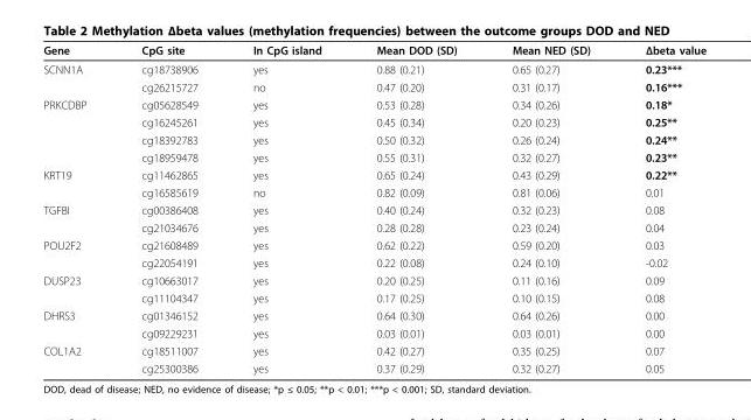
<table><thead><tr><td>Gene</td><td>CpG site</td><td>In CpG island</td><td>Mean DOD (SD)</td><td>Mean NED (SD)</td><td>Δbeta value</td></tr></thead><tbody><tr><td rowspan="2">SCNN1A</td><td>cg18738906</td><td>yes</td><td>0.88 (0.21)</td><td>0.65 (0.27)</td><td>0.23***</td></tr><tr><td>cg26215727</td><td>no</td><td>0.47 (0.20)</td><td>0.31 (0.17)</td><td>0.16***</td></tr><tr><td rowspan="4">PRKCDBP</td><td>cg05628549</td><td>yes</td><td>0.53 (0.28)</td><td>0.34 (0.26)</td><td>0.18*</td></tr><tr><td>cg16245261</td><td>yes</td><td>0.45 (0.34)</td><td>0.20 (0.23)</td><td>0.25**</td></tr><tr><td>cg18392783</td><td>yes</td><td>0.50 (0.32)</td><td>0.26 (0.24)</td><td>0.24**</td></tr><tr><td>cg18959478</td><td>yes</td><td>0.55 (0.31)</td><td>0.32 (0.27)</td><td>0.23**</td></tr><tr><td rowspan="2">KRT19</td><td>cg11462865</td><td>yes</td><td>0.65 (0.24)</td><td>0.43 (0.29)</td><td>0.22**</td></tr><tr><td>cg16585619</td><td>no</td><td>0.82 (0.09)</td><td>0.81 (0.06)</td><td>0.01</td></tr><tr><td rowspan="2">TGFBI</td><td>cg00386408</td><td>yes</td><td>0.40 (0.24)</td><td>0.32 (0.23)</td><td>0.08</td></tr><tr><td>cg21034676</td><td>yes</td><td>0.28 (0.28)</td><td>0.23 (0.24)</td><td>0.04</td></tr><tr><td rowspan="2">POU2F2</td><td>cg21608489</td><td>yes</td><td>0.62 (0.22)</td><td>0.59 (0.20)</td><td>0.03</td></tr><tr><td>cg22054191</td><td>yes</td><td>0.22 (0.08)</td><td>0.24 (0.10)</td><td>-0.02</td></tr><tr><td rowspan="2">DUSP23</td><td>cg10663017</td><td>yes</td><td>0.20 (0.25)</td><td>0.11 (0.16)</td><td>0.09</td></tr><tr><td>cg11104347</td><td>yes</td><td>0.17 (0.25)</td><td>0.10 (0.15)</td><td>0.08</td></tr><tr><td rowspan="2">DHRS3</td><td>cg01346152</td><td>yes</td><td>0.64 (0.30)</td><td>0.64 (0.26)</td><td>0.00</td></tr><tr><td>cg09229231</td><td>yes</td><td>0.03 (0.01)</td><td>0.03 (0.01)</td><td>0.00</td></tr><tr><td rowspan="2">COL1A2</td><td>cg18511007</td><td>yes</td><td>0.42 (0.27)</td><td>0.35 (0.25)</td><td>0.07</td></tr><tr><td>cg25300386</td><td>yes</td><td>0.37 (0.29)</td><td>0.32 (0.27)</td><td>0.05</td></tr></tbody></table>